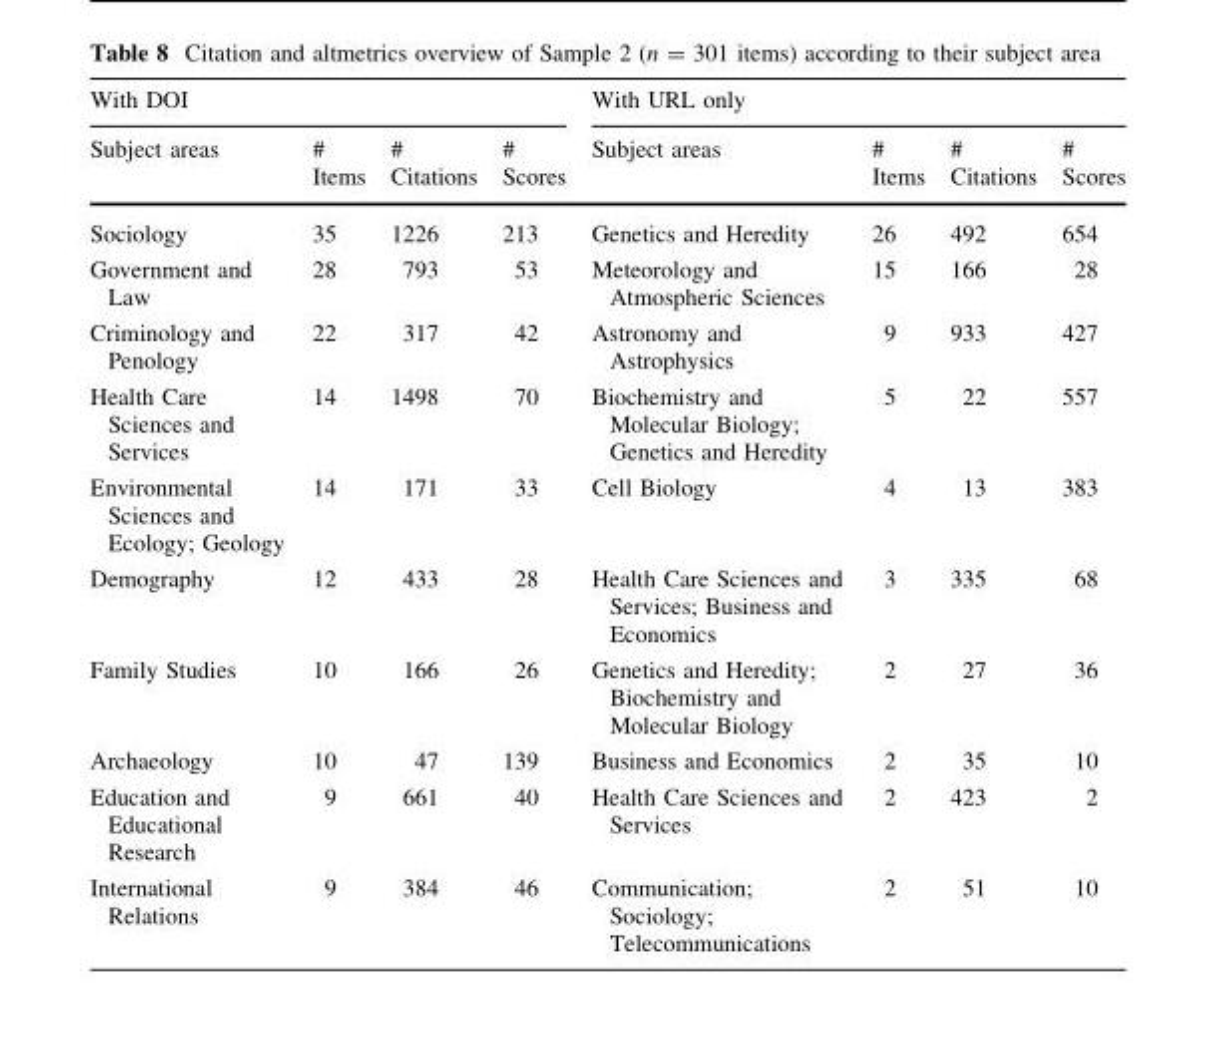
<table><thead><tr><td colspan="4">With DOI</td><td colspan="4">With URL only</td></tr><tr><td>Subject areas</td><td># Items</td><td># Citations</td><td># Scores</td><td>Subject areas</td><td># Items</td><td># Citations</td><td># Scores</td></tr></thead><tbody><tr><td>Sociology</td><td>35</td><td>1226</td><td>213</td><td>Genetics and Heredity</td><td>26</td><td>492</td><td>654</td></tr><tr><td>Government and Law</td><td>28</td><td>793</td><td>53</td><td>Meteorology and Atmospheric Sciences</td><td>15</td><td>166</td><td>28</td></tr><tr><td>Criminology and Penology</td><td>22</td><td>317</td><td>42</td><td>Astronomy and Astrophysics</td><td>9</td><td>933</td><td>427</td></tr><tr><td>Health Care Sciences and Services</td><td>14</td><td>1498</td><td>70</td><td>Biochemistry and Molecular Biology; Genetics and Heredity</td><td>5</td><td>22</td><td>557</td></tr><tr><td>Environmental Sciences and Ecology; Geology</td><td>14</td><td>171</td><td>33</td><td>Cell Biology</td><td>4</td><td>13</td><td>383</td></tr><tr><td>Demography</td><td>12</td><td>433</td><td>28</td><td>Health Care Sciences and Services; Business and Economics</td><td>3</td><td>335</td><td>68</td></tr><tr><td>Family Studies</td><td>10</td><td>166</td><td>26</td><td>Genetics and Heredity; Biochemistry and Molecular Biology</td><td>2</td><td>27</td><td>36</td></tr><tr><td>Archaeology</td><td>10</td><td>47</td><td>139</td><td>Business and Economics</td><td>2</td><td>35</td><td>10</td></tr><tr><td>Education and Educational Research</td><td>9</td><td>661</td><td>40</td><td>Health Care Sciences and Services</td><td>2</td><td>423</td><td>2</td></tr><tr><td>International Relations</td><td>9</td><td>384</td><td>46</td><td>Communication; Sociology; Telecommunications</td><td>2</td><td>51</td><td>10</td></tr></tbody></table>